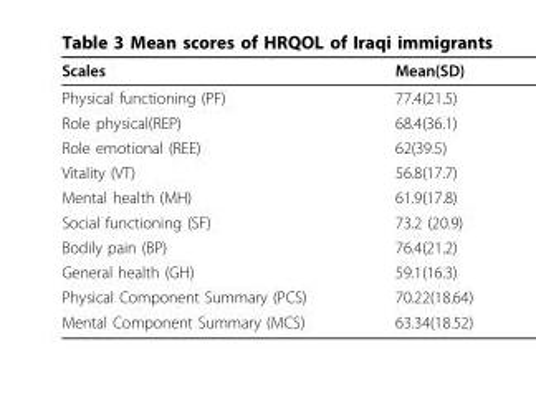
<table><thead><tr><td>Scales</td><td>Mean(SD)</td></tr></thead><tbody><tr><td>Physical functioning (PF)</td><td>77.4(21.5)</td></tr><tr><td>Role physical(REP)</td><td>68.4(36.1)</td></tr><tr><td>Role emotional (REE)</td><td>62(39.5)</td></tr><tr><td>Vitality (VT)</td><td>56.8(17.7)</td></tr><tr><td>Mental health (MH)</td><td>61.9(17.8)</td></tr><tr><td>Social functioning (SF)</td><td>73.2 (20.9)</td></tr><tr><td>Bodily pain (BP)</td><td>76.4(21.2)</td></tr><tr><td>General health (GH)</td><td>59.1(16.3)</td></tr><tr><td>Physical Component Summary (PCS)</td><td>70.22(18.64)</td></tr><tr><td>Mental Component Summary (MCS)</td><td>63.34(18.52)</td></tr></tbody></table>